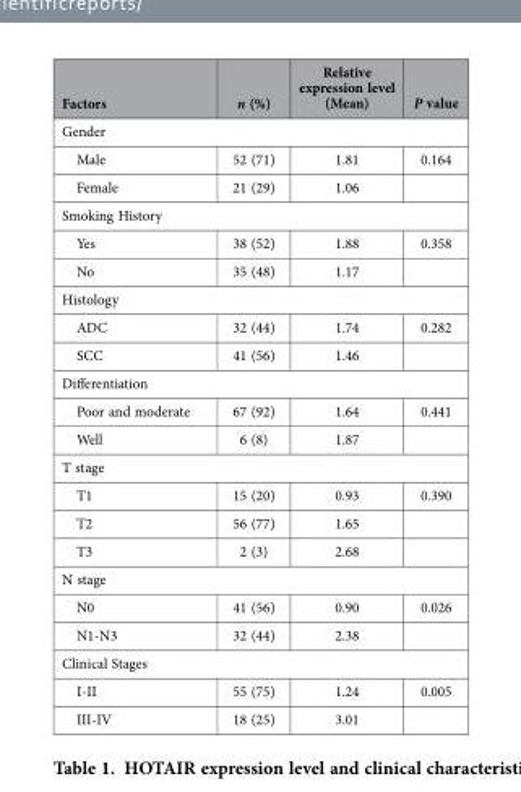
<table><thead><tr><td>Factors</td><td>n (%)</td><td>Relative expression level (Mean)</td><td>P value</td></tr></thead><tbody><tr><td colspan="4">Gender</td></tr><tr><td>Male</td><td>52 (71)</td><td>1.81</td><td>0.164</td></tr><tr><td>Female</td><td>21 (29)</td><td>1.06</td><td></td></tr><tr><td colspan="4">Smoking History</td></tr><tr><td>Yes</td><td>38 (52)</td><td>1.88</td><td>0.358</td></tr><tr><td>No</td><td>35 (48)</td><td>1.17</td><td></td></tr><tr><td colspan="4">Histology</td></tr><tr><td>ADC</td><td>32 (44)</td><td>1.74</td><td>0.282</td></tr><tr><td>SCC</td><td>41 (56)</td><td>1.46</td><td></td></tr><tr><td colspan="4">Differentiation</td></tr><tr><td>Poor and moderate</td><td>67 (92)</td><td>1.64</td><td>0.441</td></tr><tr><td>Well</td><td>6 (8)</td><td>1.87</td><td></td></tr><tr><td colspan="4">T stage</td></tr><tr><td>T1</td><td>15 (20)</td><td>0.93</td><td>0.390</td></tr><tr><td>T2</td><td>56 (77)</td><td>1.65</td><td></td></tr><tr><td>T3</td><td>2 (3)</td><td>2.68</td><td></td></tr><tr><td colspan="4">N stage</td></tr><tr><td>N0</td><td>41 (56)</td><td>0.90</td><td>0.026</td></tr><tr><td>N1-N3</td><td>32 (44)</td><td>2.38</td><td></td></tr><tr><td colspan="4">Clinical Stages</td></tr><tr><td>I-II</td><td>55 (75)</td><td>1.24</td><td>0.005</td></tr><tr><td>III-IV</td><td>18 (25)</td><td>3.01</td><td></td></tr></tbody></table>